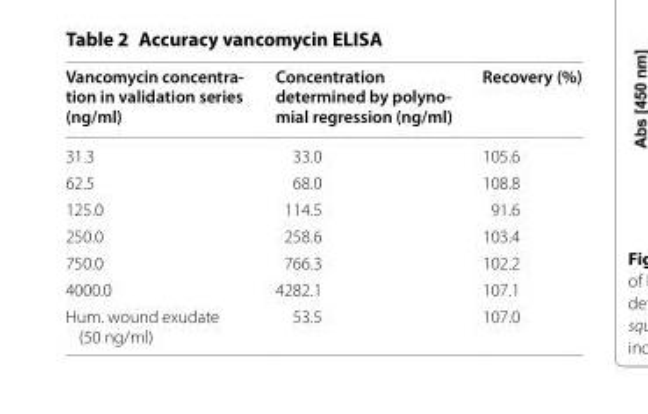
<table><thead><tr><td>Vancomycin concentra‑ tion in validation series (ng/ml)</td><td>Concentration determined by polyno‑ mial regression (ng/ml)</td><td>Recovery (%)</td></tr></thead><tbody><tr><td>31.3</td><td>33.0</td><td>105.6</td></tr><tr><td>62.5</td><td>68.0</td><td>108.8</td></tr><tr><td>125.0</td><td>114.5</td><td>91.6</td></tr><tr><td>250.0</td><td>258.6</td><td>103.4</td></tr><tr><td>750.0</td><td>766.3</td><td>102.2</td></tr><tr><td>4000.0</td><td>4282.1</td><td>107.1</td></tr><tr><td>Hum. wound exudate (50 ng/ml)</td><td>53.5</td><td>107.0</td></tr></tbody></table>